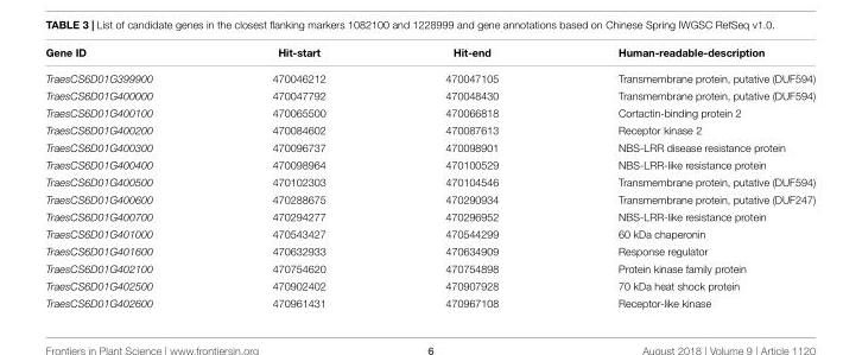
<table><thead><tr><td>Gene ID</td><td>Hit-start</td><td>Hit-end</td><td>Human-readable-description</td></tr></thead><tbody><tr><td>TraesCS6D01G399900</td><td>470046212</td><td>470047105</td><td>Transmembrane protein, putative (DUF594)</td></tr><tr><td>TraesCS6D01G400000</td><td>470047792</td><td>470048430</td><td>Transmembrane protein, putative (DUF594)</td></tr><tr><td>TraesCS6D01G400100</td><td>470065500</td><td>470066818</td><td>Cortactin-binding protein 2</td></tr><tr><td>TraesCS6D01G400200</td><td>470084602</td><td>470087613</td><td>Receptor kinase 2</td></tr><tr><td>TraesCS6D01G400300</td><td>470096737</td><td>470098901</td><td>NBS-LRR disease resistance protein</td></tr><tr><td>TraesCS6D01G400400</td><td>470098964</td><td>470100529</td><td>NBS-LRR-like resistance protein</td></tr><tr><td>TraesCS6D01G400500</td><td>470102303</td><td>470104546</td><td>Transmembrane protein, putative (DUF594)</td></tr><tr><td>TraesCS6D01G400600</td><td>470288675</td><td>470290934</td><td>Transmembrane protein, putative (DUF247)</td></tr><tr><td>TraesCS6D01G400700</td><td>470294277</td><td>470296952</td><td>NBS-LRR-like resistance protein</td></tr><tr><td>TraesCS6D01G401000</td><td>470543427</td><td>470544299</td><td>60 kDa chaperonin</td></tr><tr><td>TraesCS6D01G401600</td><td>470632933</td><td>470634909</td><td>Response regulator</td></tr><tr><td>TraesCS6D01G402100</td><td>470754620</td><td>470754898</td><td>Protein kinase family protein</td></tr><tr><td>TraesCS6D01G402500</td><td>470902402</td><td>470907928</td><td>70 kDa heat shock protein</td></tr><tr><td>TraesCS6D01G402600</td><td>470961431</td><td>470967108</td><td>Receptor-like kinase</td></tr></tbody></table>